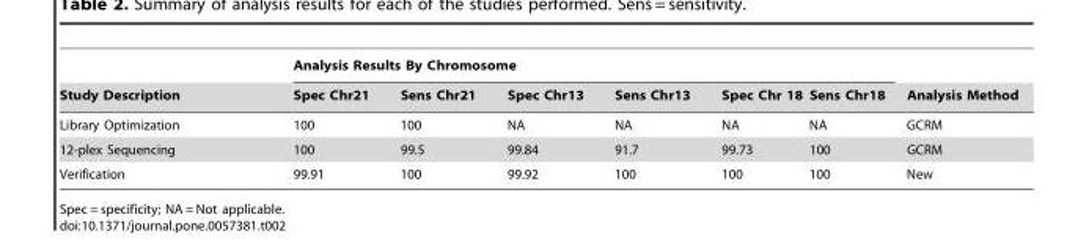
<table><thead><tr><td rowspan="2">Study Description</td><td colspan="6">Analysis Results By Chromosome</td><td rowspan="2">Analysis Method</td></tr><tr><td>Spec Chr21</td><td>Sens Chr21</td><td>Spec Chr13</td><td>Sens Chr13</td><td>Spec Chr 18</td><td>Sens Chr18</td></tr></thead><tbody><tr><td>Library Optimization</td><td>100</td><td>100</td><td>NA</td><td>NA</td><td>NA</td><td>NA</td><td>GCRM</td></tr><tr><td>12-plex Sequencing</td><td>100</td><td>99.5</td><td>99.84</td><td>91.7</td><td>99.73</td><td>100</td><td>GCRM</td></tr><tr><td>Verification</td><td>99.91</td><td>100</td><td>99.92</td><td>100</td><td>100</td><td>100</td><td>New</td></tr></tbody></table>